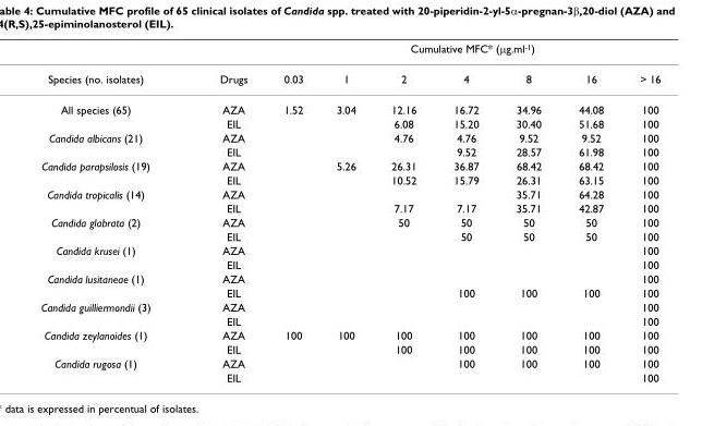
<table><thead><tr><td rowspan="2">Species (no. isolates)</td><td rowspan="2">Drugs</td><td colspan="7">Cumulative MFC* (μg.ml<sup>-1</sup>)</td></tr><tr><td>0.03</td><td>1</td><td>2</td><td>4</td><td>8</td><td>16</td><td>&gt; 16</td></tr></thead><tbody><tr><td rowspan="2">All species (65)</td><td>AZA</td><td>1.52</td><td>3.04</td><td>12.16</td><td>16.72</td><td>34.96</td><td>44.08</td><td>100</td></tr><tr><td>EIL</td><td></td><td></td><td>6.08</td><td>15.20</td><td>30.40</td><td>51.68</td><td>100</td></tr><tr><td rowspan="2">Candida albicans (21)</td><td>AZA</td><td></td><td></td><td>4.76</td><td>4.76</td><td>9.52</td><td>9.52</td><td>100</td></tr><tr><td>EIL</td><td></td><td></td><td></td><td>9.52</td><td>28.57</td><td>61.98</td><td>100</td></tr><tr><td rowspan="2">Candida parapsilosis (19)</td><td>AZA</td><td></td><td>5.26</td><td>26.31</td><td>36.87</td><td>68.42</td><td>68.42</td><td>100</td></tr><tr><td>EIL</td><td></td><td></td><td>10.52</td><td>15.79</td><td>26.31</td><td>63.15</td><td>100</td></tr><tr><td rowspan="2">Candida tropicalis (14)</td><td>AZA</td><td></td><td></td><td></td><td></td><td>35.71</td><td>64.28</td><td>100</td></tr><tr><td>EIL</td><td></td><td></td><td>7.17</td><td>7.17</td><td>35.71</td><td>42.87</td><td>100</td></tr><tr><td rowspan="2">Candida glabrata (2)</td><td>AZA</td><td></td><td></td><td>50</td><td>50</td><td>50</td><td>50</td><td>100</td></tr><tr><td>EIL</td><td></td><td></td><td></td><td>50</td><td>50</td><td>50</td><td>100</td></tr><tr><td rowspan="2">Candida krusei (1)</td><td>AZA</td><td></td><td></td><td></td><td></td><td></td><td></td><td>100</td></tr><tr><td>EIL</td><td></td><td></td><td></td><td></td><td></td><td></td><td>100</td></tr><tr><td rowspan="2">Candida lusitaneae (1)</td><td>AZA</td><td></td><td></td><td></td><td></td><td></td><td></td><td>100</td></tr><tr><td>EIL</td><td></td><td></td><td></td><td>100</td><td>100</td><td>100</td><td>100</td></tr><tr><td rowspan="2">Candida guilliermondii (3)</td><td>AZA</td><td></td><td></td><td></td><td></td><td></td><td></td><td>100</td></tr><tr><td>EIL</td><td></td><td></td><td></td><td></td><td></td><td></td><td>100</td></tr><tr><td rowspan="2">Candida zeylanoides (1)</td><td>AZA</td><td>100</td><td>100</td><td>100</td><td>100</td><td>100</td><td>100</td><td>100</td></tr><tr><td>EIL</td><td></td><td></td><td>100</td><td>100</td><td>100</td><td>100</td><td>100</td></tr><tr><td rowspan="2">Candida rugosa (1)</td><td>AZA</td><td></td><td></td><td></td><td>100</td><td>100</td><td>100</td><td>100</td></tr><tr><td>EIL</td><td></td><td></td><td></td><td></td><td></td><td></td><td>100</td></tr></tbody></table>